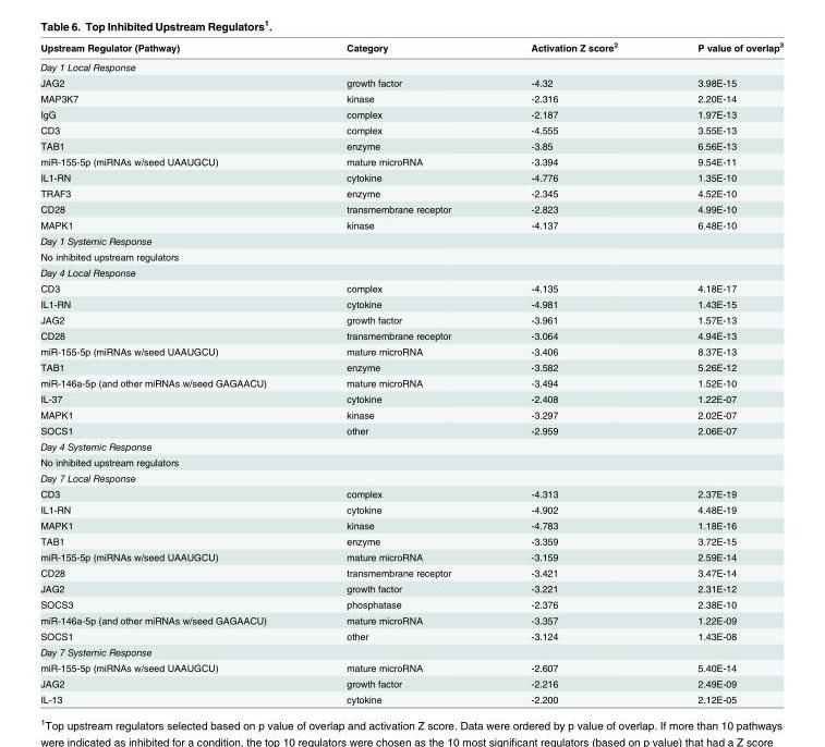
<table><thead><tr><td>Upstream Regulator (Pathway)</td><td>Category</td><td>Activation Z score<sup>2</sup></td><td>P value of overlap<sup>3</sup></td></tr></thead><tbody><tr><td colspan="4">Day 1 Local Response</td></tr><tr><td>JAG2</td><td>growth factor</td><td>-4.32</td><td>3.98E-15</td></tr><tr><td>MAP3K7</td><td>kinase</td><td>-2.316</td><td>2.20E-14</td></tr><tr><td>IgG</td><td>complex</td><td>-2.187</td><td>1.97E-13</td></tr><tr><td>CD3</td><td>complex</td><td>-4.555</td><td>3.55E-13</td></tr><tr><td>TAB1</td><td>enzyme</td><td>-3.85</td><td>6.56E-13</td></tr><tr><td>miR-155-5p (miRNAs w/seed UAAUGCU)</td><td>mature microRNA</td><td>-3.394</td><td>9.54E-11</td></tr><tr><td>IL1-RN</td><td>cytokine</td><td>-4.776</td><td>1.35E-10</td></tr><tr><td>TRAF3</td><td>enzyme</td><td>-2.345</td><td>4.52E-10</td></tr><tr><td>CD28</td><td>transmembrane receptor</td><td>-2.823</td><td>4.99E-10</td></tr><tr><td>MAPK1</td><td>kinase</td><td>-4.137</td><td>6.48E-10</td></tr><tr><td colspan="4">Day 1 Systemic Response</td></tr><tr><td colspan="4">No inhibited upstream regulators</td></tr><tr><td colspan="4">Day 4 Local Response</td></tr><tr><td>CD3</td><td>complex</td><td>-4.135</td><td>4.18E-17</td></tr><tr><td>IL1-RN</td><td>cytokine</td><td>-4.981</td><td>1.43E-15</td></tr><tr><td>JAG2</td><td>growth factor</td><td>-3.961</td><td>1.57E-13</td></tr><tr><td>CD28</td><td>transmembrane receptor</td><td>-3.064</td><td>4.94E-13</td></tr><tr><td>miR-155-5p (miRNAs w/seed UAAUGCU)</td><td>mature microRNA</td><td>-3.406</td><td>8.37E-13</td></tr><tr><td>TAB1</td><td>enzyme</td><td>-3.582</td><td>5.26E-12</td></tr><tr><td>miR-146a-5p (and other miRNAs w/seed GAGAACU)</td><td>mature microRNA</td><td>-3.494</td><td>1.52E-10</td></tr><tr><td>IL-37</td><td>cytokine</td><td>-2.408</td><td>1.22E-07</td></tr><tr><td>MAPK1</td><td>kinase</td><td>-3.297</td><td>2.02E-07</td></tr><tr><td>SOCS1</td><td>other</td><td>-2.959</td><td>2.06E-07</td></tr><tr><td colspan="4">Day 4 Systemic Response</td></tr><tr><td colspan="4">No inhibited upstream regulators</td></tr><tr><td colspan="4">Day 7 Local Response</td></tr><tr><td>CD3</td><td>complex</td><td>-4.313</td><td>2.37E-19</td></tr><tr><td>IL1-RN</td><td>cytokine</td><td>-4.902</td><td>4.48E-19</td></tr><tr><td>MAPK1</td><td>kinase</td><td>-4.783</td><td>1.18E-16</td></tr><tr><td>TAB1</td><td>enzyme</td><td>-3.359</td><td>3.72E-15</td></tr><tr><td>miR-155-5p (miRNAs w/seed UAAUGCU)</td><td>mature microRNA</td><td>-3.159</td><td>2.59E-14</td></tr><tr><td>CD28</td><td>transmembrane receptor</td><td>-3.421</td><td>3.47E-14</td></tr><tr><td>JAG2</td><td>growth factor</td><td>-3.221</td><td>2.31E-12</td></tr><tr><td>SOCS3</td><td>phosphatase</td><td>-2.376</td><td>2.38E-10</td></tr><tr><td>miR-146a-5p (and other miRNAs w/seed GAGAACU)</td><td>mature microRNA</td><td>-3.357</td><td>1.22E-09</td></tr><tr><td>SOCS1</td><td>other</td><td>-3.124</td><td>1.43E-08</td></tr><tr><td colspan="4">Day 7 Systemic Response</td></tr><tr><td>miR-155-5p (miRNAs w/seed UAAUGCU)</td><td>mature microRNA</td><td>-2.607</td><td>5.40E-14</td></tr><tr><td>JAG2</td><td>growth factor</td><td>-2.216</td><td>2.49E-09</td></tr><tr><td>IL-13</td><td>cytokine</td><td>-2.200</td><td>2.12E-05</td></tr></tbody></table>